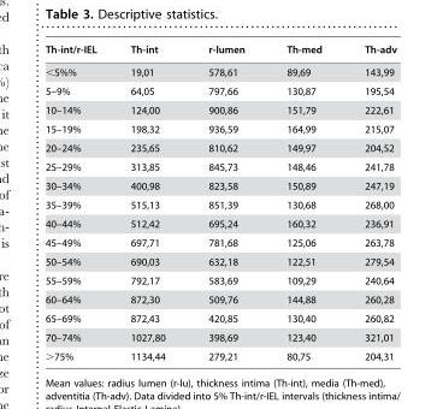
<table><thead><tr><td>Th-int/r-IEL</td><td>Th-int</td><td>r-lumen</td><td>Th-med</td><td>Th-adv</td></tr></thead><tbody><tr><td>&lt;5%%</td><td>19,01</td><td>578,61</td><td>89,69</td><td>143,99</td></tr><tr><td>5–9%</td><td>64,05</td><td>797,66</td><td>130,87</td><td>195,54</td></tr><tr><td>10–14%</td><td>124,00</td><td>900,86</td><td>151,79</td><td>222,61</td></tr><tr><td>15–19%</td><td>198,32</td><td>936,59</td><td>164,99</td><td>215,07</td></tr><tr><td>20–24%</td><td>235,65</td><td>810,62</td><td>149,97</td><td>204,52</td></tr><tr><td>25–29%</td><td>313,85</td><td>845,73</td><td>148,46</td><td>241,78</td></tr><tr><td>30–34%</td><td>400,98</td><td>823,58</td><td>150,89</td><td>247,19</td></tr><tr><td>35–39%</td><td>515,13</td><td>851,39</td><td>130,68</td><td>268,00</td></tr><tr><td>40–44%</td><td>512,42</td><td>695,24</td><td>160,32</td><td>236,91</td></tr><tr><td>45–49%</td><td>697,71</td><td>781,68</td><td>125,06</td><td>263,78</td></tr><tr><td>50–54%</td><td>690,03</td><td>632,18</td><td>122,51</td><td>279,54</td></tr><tr><td>55–59%</td><td>792,17</td><td>583,69</td><td>109,29</td><td>240,64</td></tr><tr><td>60–64%</td><td>872,30</td><td>509,76</td><td>144,88</td><td>260,28</td></tr><tr><td>65–69%</td><td>872,43</td><td>420,85</td><td>130,40</td><td>260,82</td></tr><tr><td>70–74%</td><td>1027,80</td><td>398,69</td><td>123,40</td><td>321,01</td></tr><tr><td>&gt;75%</td><td>1134,44</td><td>279,21</td><td>80,75</td><td>204,31</td></tr></tbody></table>